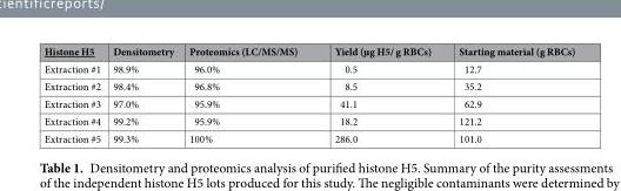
<table><thead><tr><td>Histone H5</td><td>Densitometry</td><td>Proteomics (LC/MS/MS)</td><td>Yield (µg H5/ g RBCs)</td><td>Starting material (g RBCs)</td></tr></thead><tbody><tr><td>Extraction #1</td><td>98.9%</td><td>96.0%</td><td>0.5</td><td>12.7</td></tr><tr><td>Extraction #2</td><td>98.4%</td><td>96.8%</td><td>8.5</td><td>35.2</td></tr><tr><td>Extraction #3</td><td>97.0%</td><td>95.9%</td><td>41.1</td><td>62.9</td></tr><tr><td>Extraction #4</td><td>99.2%</td><td>95.9%</td><td>18.2</td><td>121.2</td></tr><tr><td>Extraction #5</td><td>99.3%</td><td>100%</td><td>286.0</td><td>101.0</td></tr></tbody></table>